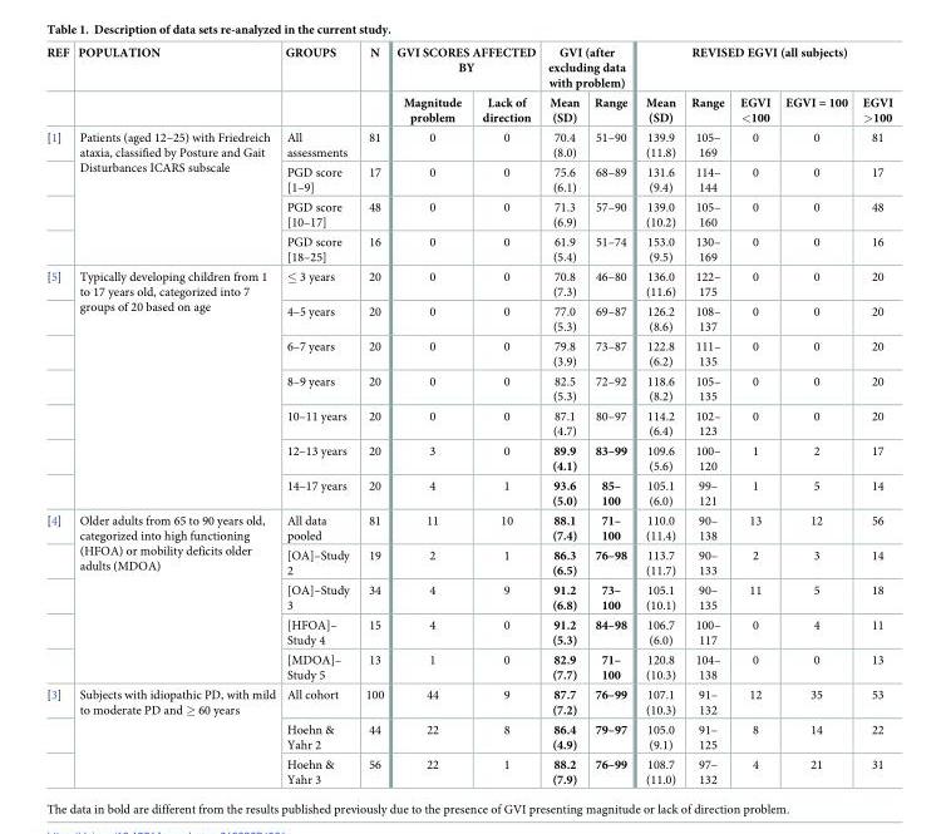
<table><thead><tr><td rowspan="2">REF</td><td rowspan="2">POPULATION</td><td rowspan="2">GROUPS</td><td rowspan="2">N</td><td colspan="2">GVI SCORES AFFECTED BY</td><td colspan="2">GVI (after excluding data with problem)</td><td colspan="5">REVISED EGVI (all subjects)</td></tr><tr><td>Magnitude problem</td><td>Lack of direction</td><td>Mean (SD)</td><td>Range</td><td>Mean (SD)</td><td>Range</td><td>EGVI &lt;100</td><td>EGVI = 100</td><td>EGVI &gt;100</td></tr></thead><tbody><tr><td rowspan="4">[1]</td><td rowspan="4">Patients (aged 12–25) with Friedreich ataxia, classified by Posture and Gait Disturbances ICARS subscale</td><td>All assessments</td><td>81</td><td>0</td><td>0</td><td>70.4 (8.0)</td><td>51–90</td><td>139.9 (11.8)</td><td>105– 169</td><td>0</td><td>0</td><td>81</td></tr><tr><td>PGD score [1–9]</td><td>17</td><td>0</td><td>0</td><td>75.6 (6.1)</td><td>68–89</td><td>131.6 (9.4)</td><td>114– 144</td><td>0</td><td>0</td><td>17</td></tr><tr><td>PGD score [10–17]</td><td>48</td><td>0</td><td>0</td><td>71.3 (6.9)</td><td>57–90</td><td>139.0 (10.2)</td><td>105– 160</td><td>0</td><td>0</td><td>48</td></tr><tr><td>PGD score [18–25]</td><td>16</td><td>0</td><td>0</td><td>61.9 (5.4)</td><td>51–74</td><td>153.0 (9.5)</td><td>130– 169</td><td>0</td><td>0</td><td>16</td></tr><tr><td rowspan="7">[5]</td><td rowspan="7">Typically developing children from 1 to 17 years old, categorized into 7 groups of 20 based on age</td><td>≤ 3 years</td><td>20</td><td>0</td><td>0</td><td>70.8 (7.3)</td><td>46–80</td><td>136.0 (11.6)</td><td>122– 175</td><td>0</td><td>0</td><td>20</td></tr><tr><td>4–5 years</td><td>20</td><td>0</td><td>0</td><td>77.0 (5.3)</td><td>69–87</td><td>126.2 (8.6)</td><td>108– 137</td><td>0</td><td>0</td><td>20</td></tr><tr><td>6–7 years</td><td>20</td><td>0</td><td>0</td><td>79.8 (3.9)</td><td>73–87</td><td>122.8 (6.2)</td><td>111– 135</td><td>0</td><td>0</td><td>20</td></tr><tr><td>8–9 years</td><td>20</td><td>0</td><td>0</td><td>82.5 (5.3)</td><td>72–92</td><td>118.6 (8.2)</td><td>105– 135</td><td>0</td><td>0</td><td>20</td></tr><tr><td>10–11 years</td><td>20</td><td>0</td><td>0</td><td>87.1 (4.7)</td><td>80–97</td><td>114.2 (6.4)</td><td>102– 123</td><td>0</td><td>0</td><td>20</td></tr><tr><td>12–13 years</td><td>20</td><td>3</td><td>0</td><td>89.9 (4.1)</td><td>83–99</td><td>109.6 (5.6)</td><td>100– 120</td><td>1</td><td>2</td><td>17</td></tr><tr><td>14–17 years</td><td>20</td><td>4</td><td>1</td><td>93.6 (5.0)</td><td>85– 100</td><td>105.1 (6.0)</td><td>99– 121</td><td>1</td><td>5</td><td>14</td></tr><tr><td rowspan="5">[4]</td><td rowspan="5">Older adults from 65 to 90 years old, categorized into high functioning (HFOA) or mobility deficits older adults (MDOA)</td><td>All data pooled</td><td>81</td><td>11</td><td>10</td><td>88.1 (7.4)</td><td>71– 100</td><td>110.0 (11.4)</td><td>90– 138</td><td>13</td><td>12</td><td>56</td></tr><tr><td>[OA]–Study 2</td><td>19</td><td>2</td><td>1</td><td>86.3 (6.5)</td><td>76–98</td><td>113.7 (11.7)</td><td>90– 133</td><td>2</td><td>3</td><td>14</td></tr><tr><td>[OA]–Study 3</td><td>34</td><td>4</td><td>9</td><td>91.2 (6.8)</td><td>73– 100</td><td>105.1 (10.1)</td><td>90– 135</td><td>11</td><td>5</td><td>18</td></tr><tr><td>[HFOA]– Study 4</td><td>15</td><td>4</td><td>0</td><td>91.2 (5.3)</td><td>84–98</td><td>106.7 (6.0)</td><td>100– 117</td><td>0</td><td>4</td><td>11</td></tr><tr><td>[MDOA]– Study 5</td><td>13</td><td>1</td><td>0</td><td>82.9 (7.7)</td><td>71– 100</td><td>120.8 (10.3)</td><td>104– 138</td><td>0</td><td>0</td><td>13</td></tr><tr><td rowspan="3">[3]</td><td rowspan="3">Subjects with idiopathic PD, with mild to moderate PD and ≥ 60 years</td><td>All cohort</td><td>100</td><td>44</td><td>9</td><td>87.7 (7.2)</td><td>76–99</td><td>107.1 (10.3)</td><td>91– 132</td><td>12</td><td>35</td><td>53</td></tr><tr><td>Hoehn &amp; Yahr 2</td><td>44</td><td>22</td><td>8</td><td>86.4 (4.9)</td><td>79–97</td><td>105.0 (9.1)</td><td>91– 125</td><td>8</td><td>14</td><td>22</td></tr><tr><td>Hoehn &amp; Yahr 3</td><td>56</td><td>22</td><td>1</td><td>88.2 (7.9)</td><td>76–99</td><td>108.7 (11.0)</td><td>97– 132</td><td>4</td><td>21</td><td>31</td></tr></tbody></table>